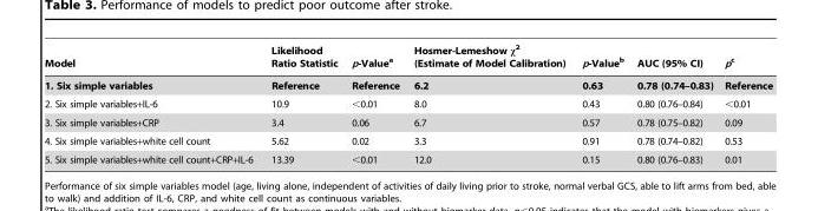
<table><thead><tr><td>Model</td><td>Likelihood Ratio Statistic</td><td>p-Value<sup>a</sup></td><td>Hosmer-Lemeshow χ<sup>2</sup> (Estimate of Model Calibration)</td><td>p-Value<sup>b</sup></td><td>AUC (95% CI)</td><td>pc</td></tr></thead><tbody><tr><td>1. Six simple variables</td><td>Reference</td><td>Reference</td><td>6.2</td><td>0.63</td><td>0.78 (0.74–0.83)</td><td>Reference</td></tr><tr><td>2. Six simple variables+IL-6</td><td>10.9</td><td>&lt;0.01</td><td>8.0</td><td>0.43</td><td>0.80 (0.76–0.84)</td><td>&lt;0.01</td></tr><tr><td>3. Six simple variables+CRP</td><td>3.4</td><td>0.06</td><td>6.7</td><td>0.57</td><td>0.78 (0.75–0.82)</td><td>0.09</td></tr><tr><td>4. Six simple variables+white cell count</td><td>5.62</td><td>0.02</td><td>3.3</td><td>0.91</td><td>0.78 (0.74–0.82)</td><td>0.53</td></tr><tr><td>5. Six simple variables+white cell count+CRP+IL-6</td><td>13.39</td><td>&lt;0.01</td><td>12.0</td><td>0.15</td><td>0.80 (0.76–0.83)</td><td>0.01</td></tr></tbody></table>